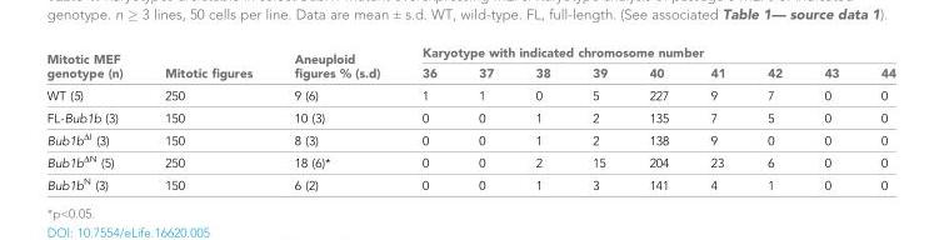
<table><thead><tr><td rowspan="2">Mitotic MEF genotype (n)</td><td rowspan="2">Mitotic figures</td><td rowspan="2">Aneuploid figures % (s.d)</td><td colspan="9">Karyotype with indicated chromosome number</td></tr><tr><td>36</td><td>37</td><td>38</td><td>39</td><td>40</td><td>41</td><td>42</td><td>43</td><td>44</td></tr></thead><tbody><tr><td>WT (5)</td><td>250</td><td>9 (6)</td><td>1</td><td>1</td><td>0</td><td>5</td><td>227</td><td>9</td><td>7</td><td>0</td><td>0</td></tr><tr><td>FL-Bub1b (3)</td><td>150</td><td>10 (3)</td><td>0</td><td>0</td><td>1</td><td>2</td><td>135</td><td>7</td><td>5</td><td>0</td><td>0</td></tr><tr><td>Bub1b<sup>ΔI</sup> (3)</td><td>150</td><td>8 (3)</td><td>0</td><td>0</td><td>1</td><td>2</td><td>138</td><td>9</td><td>0</td><td>0</td><td>0</td></tr><tr><td>Bub1b<sup>ΔN</sup> (5)</td><td>250</td><td>18 (6)*</td><td>0</td><td>0</td><td>2</td><td>15</td><td>204</td><td>23</td><td>6</td><td>0</td><td>0</td></tr><tr><td>Bub1b<sup>N</sup> (3)</td><td>150</td><td>6 (2)</td><td>0</td><td>0</td><td>1</td><td>3</td><td>141</td><td>4</td><td>1</td><td>0</td><td>0</td></tr></tbody></table>